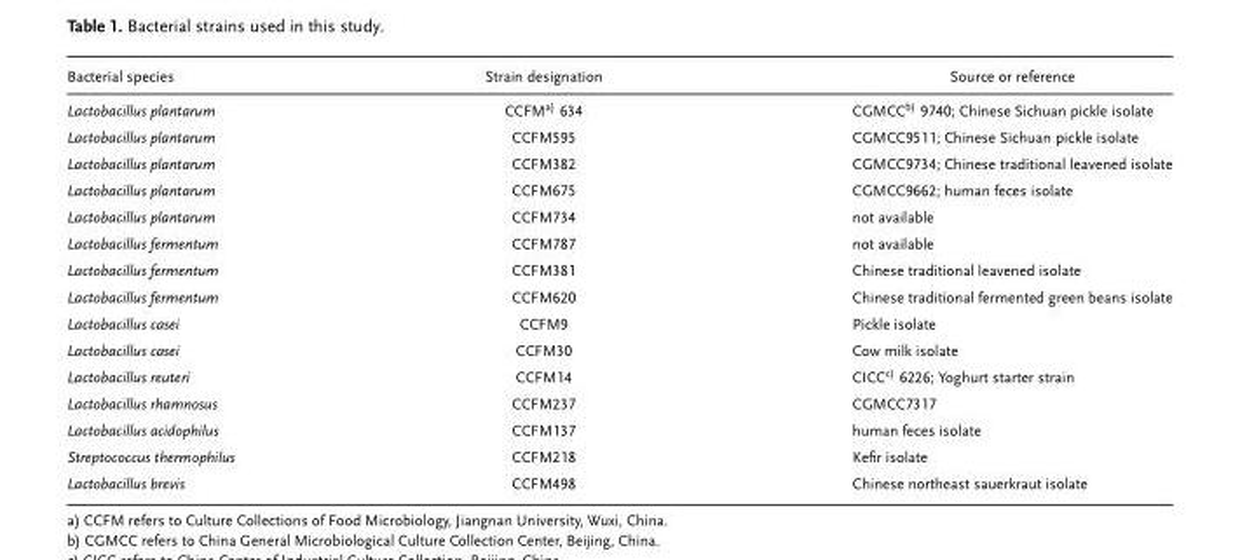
<table><thead><tr><td>Bacterial species</td><td>Strain designation</td><td>Source or reference</td></tr></thead><tbody><tr><td>Lactobacillus plantarum</td><td>CCFMa) 634</td><td>CGMCCb) 9740; Chinese Sichuan pickle isolate</td></tr><tr><td>Lactobacillus plantarum</td><td>CCFM595</td><td>CGMCC9511; Chinese Sichuan pickle isolate</td></tr><tr><td>Lactobacillus plantarum</td><td>CCFM382</td><td>CGMCC9734; Chinese traditional leavened isolate</td></tr><tr><td>Lactobacillus plantarum</td><td>CCFM675</td><td>CGMCC9662; human feces isolate</td></tr><tr><td>Lactobacillus plantarum</td><td>CCFM734</td><td>not available</td></tr><tr><td>Lactobacillus fermentum</td><td>CCFM787</td><td>not available</td></tr><tr><td>Lactobacillus fermentum</td><td>CCFM381</td><td>Chinese traditional leavened isolate</td></tr><tr><td>Lactobacillus fermentum</td><td>CCFM620</td><td>Chinese traditional fermented green beans isolate</td></tr><tr><td>Lactobacillus casei</td><td>CCFM9</td><td>Pickle isolate</td></tr><tr><td>Lactobacillus casei</td><td>CCFM30</td><td>Cow milk isolate</td></tr><tr><td>Lactobacillus reuteri</td><td>CCFM14</td><td>CICCc) 6226; Yoghurt starter strain</td></tr><tr><td>Lactobacillus rhamnosus</td><td>CCFM237</td><td>CGMCC7317</td></tr><tr><td>Lactobacillus acidophilus</td><td>CCFM137</td><td>human feces isolate</td></tr><tr><td>Streptococcus thermophilus</td><td>CCFM218</td><td>Kefir isolate</td></tr><tr><td>Lactobacillus brevis</td><td>CCFM498</td><td>Chinese northeast sauerkraut isolate</td></tr></tbody></table>